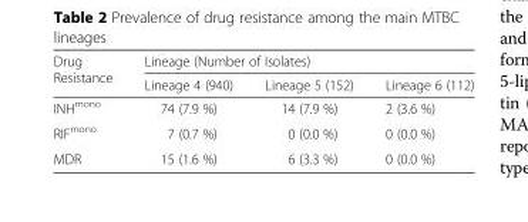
<table><thead><tr><td rowspan="2">Drug Resistance</td><td colspan="3">Lineage (Number of Isolates)</td></tr><tr><td>Lineage 4 (940)</td><td>Lineage 5 (152)</td><td>Lineage 6 (112)</td></tr></thead><tbody><tr><td>INH<sup>mono</sup></td><td>74 (7.9 %)</td><td>14 (7.9 %)</td><td>2 (3.6 %)</td></tr><tr><td>RIF<sup>mono</sup></td><td>7 (0.7 %)</td><td>0 (0.0 %)</td><td>0 (0.0 %)</td></tr><tr><td>MDR</td><td>15 (1.6 %)</td><td>6 (3.3 %)</td><td>0 (0.0 %)</td></tr></tbody></table>